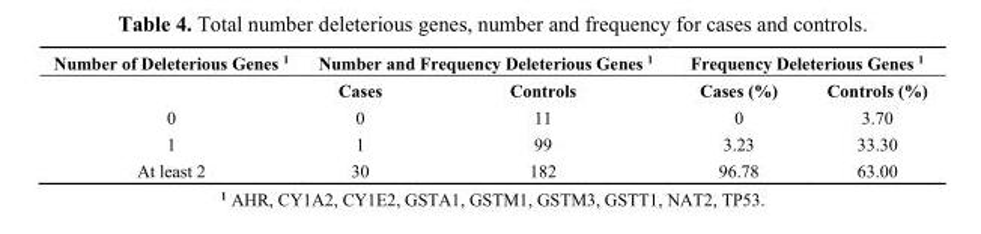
<table><thead><tr><td rowspan="2">Number of Deleterious Genes <sup>1</sup></td><td colspan="2">Number and Frequency Deleterious Genes <sup>1</sup></td><td colspan="2">Frequency Deleterious Genes <sup>1</sup></td></tr><tr><td>Cases</td><td>Controls</td><td>Cases (%)</td><td>Controls (%)</td></tr></thead><tbody><tr><td>0</td><td>0</td><td>11</td><td>0</td><td>3.70</td></tr><tr><td>1</td><td>1</td><td>99</td><td>3.23</td><td>33.30</td></tr><tr><td>At least 2</td><td>30</td><td>182</td><td>96.78</td><td>63.00</td></tr></tbody></table>